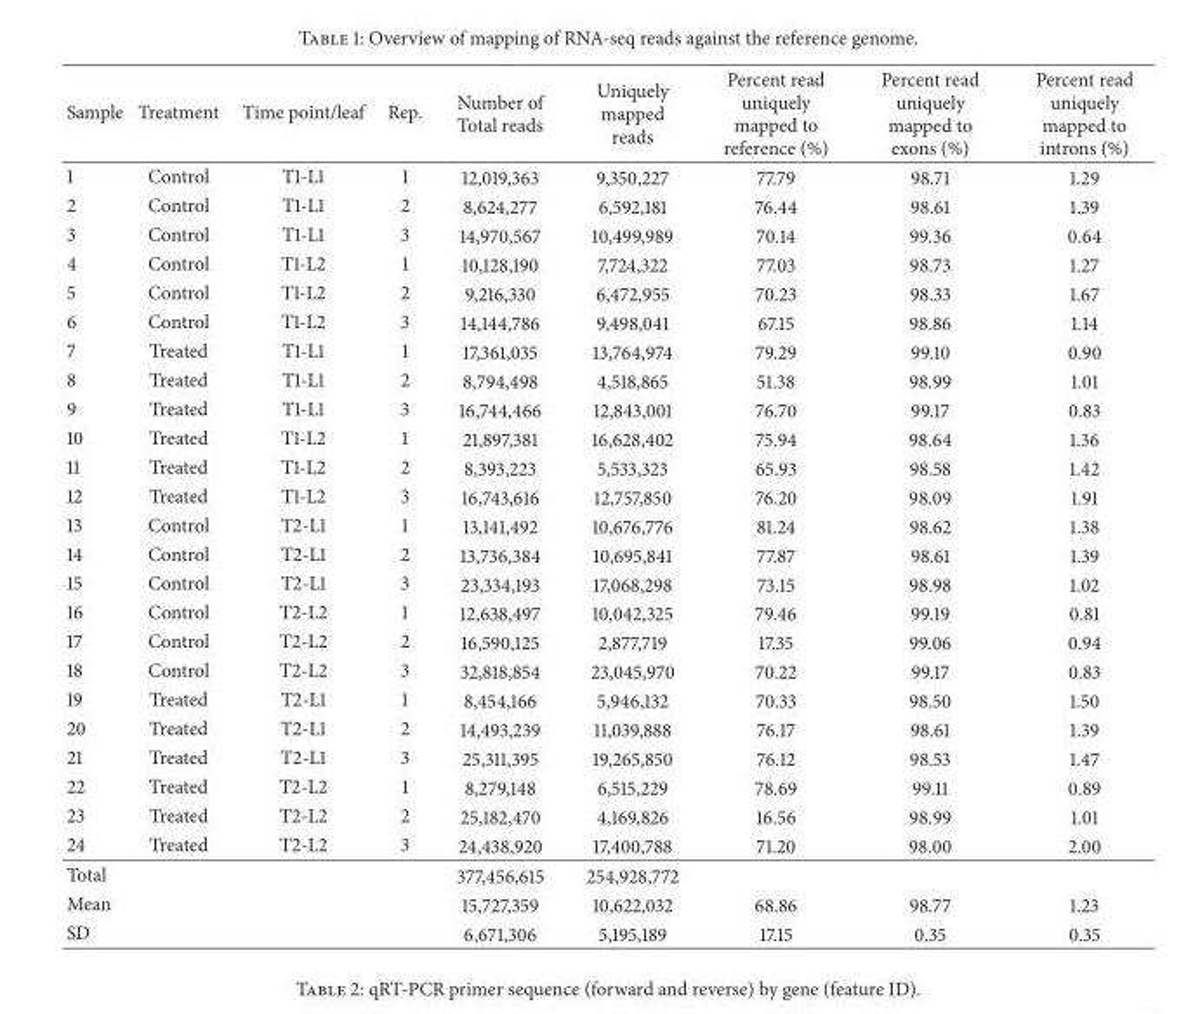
<table><thead><tr><td>Sample</td><td>Treatment</td><td>Time point/leaf</td><td>Rep.</td><td>Number of Total reads</td><td>Uniquely mapped reads</td><td>Percent read uniquely mapped to reference (%)</td><td>Percent read uniquely mapped to exons (%)</td><td>Percent read uniquely mapped to introns (%)</td></tr></thead><tbody><tr><td>1</td><td>Control</td><td>T1-L1</td><td>1</td><td>12,019,363</td><td>9,350,227</td><td>77.79</td><td>98.71</td><td>1.29</td></tr><tr><td>2</td><td>Control</td><td>T1-L1</td><td>2</td><td>8,624,277</td><td>6,592,181</td><td>76.44</td><td>98.61</td><td>1.39</td></tr><tr><td>3</td><td>Control</td><td>T1-L1</td><td>3</td><td>14,970,567</td><td>10,499,989</td><td>70.14</td><td>99.36</td><td>0.64</td></tr><tr><td>4</td><td>Control</td><td>T1-L2</td><td>1</td><td>10,128,190</td><td>7,724,322</td><td>77.03</td><td>98.73</td><td>1.27</td></tr><tr><td>5</td><td>Control</td><td>T1-L2</td><td>2</td><td>9,216,330</td><td>6,472,955</td><td>70.23</td><td>98.33</td><td>1.67</td></tr><tr><td>6</td><td>Control</td><td>T1-L2</td><td>3</td><td>14,144,786</td><td>9,498,041</td><td>67.15</td><td>98.86</td><td>1.14</td></tr><tr><td>7</td><td>Treated</td><td>T1-L1</td><td>1</td><td>17,361,035</td><td>13,764,974</td><td>79.29</td><td>99.10</td><td>0.90</td></tr><tr><td>8</td><td>Treated</td><td>T1-L1</td><td>2</td><td>8,794,498</td><td>4,518,865</td><td>51.38</td><td>98.99</td><td>1.01</td></tr><tr><td>9</td><td>Treated</td><td>T1-L1</td><td>3</td><td>16,744,466</td><td>12,843,001</td><td>76.70</td><td>99.17</td><td>0.83</td></tr><tr><td>10</td><td>Treated</td><td>T1-L2</td><td>1</td><td>21,897,381</td><td>16,628,402</td><td>75.94</td><td>98.64</td><td>1.36</td></tr><tr><td>11</td><td>Treated</td><td>T1-L2</td><td>2</td><td>8,393,223</td><td>5,533,323</td><td>65.93</td><td>98.58</td><td>1.42</td></tr><tr><td>12</td><td>Treated</td><td>T1-L2</td><td>3</td><td>16,743,616</td><td>12,757,850</td><td>76.20</td><td>98.09</td><td>1.91</td></tr><tr><td>13</td><td>Control</td><td>T2-L1</td><td>1</td><td>13,141,492</td><td>10,676,776</td><td>81.24</td><td>98.62</td><td>1.38</td></tr><tr><td>14</td><td>Control</td><td>T2-L1</td><td>2</td><td>13,736,384</td><td>10,695,841</td><td>77.87</td><td>98.61</td><td>1.39</td></tr><tr><td>15</td><td>Control</td><td>T2-L1</td><td>3</td><td>23,334,193</td><td>17,068,298</td><td>73.15</td><td>98.98</td><td>1.02</td></tr><tr><td>16</td><td>Control</td><td>T2-L2</td><td>1</td><td>12,638,497</td><td>10,042,325</td><td>79.46</td><td>99.19</td><td>0.81</td></tr><tr><td>17</td><td>Control</td><td>T2-L2</td><td>2</td><td>16,590,125</td><td>2,877,719</td><td>17.35</td><td>99.06</td><td>0.94</td></tr><tr><td>18</td><td>Control</td><td>T2-L2</td><td>3</td><td>32,818,854</td><td>23,045,970</td><td>70.22</td><td>99.17</td><td>0.83</td></tr><tr><td>19</td><td>Treated</td><td>T2-L1</td><td>1</td><td>8,454,166</td><td>5,946,132</td><td>70.33</td><td>98.50</td><td>1.50</td></tr><tr><td>20</td><td>Treated</td><td>T2-L1</td><td>2</td><td>14,493,239</td><td>11,039,888</td><td>76.17</td><td>98.61</td><td>1.39</td></tr><tr><td>21</td><td>Treated</td><td>T2-L1</td><td>3</td><td>25,311,395</td><td>19,265,850</td><td>76.12</td><td>98.53</td><td>1.47</td></tr><tr><td>22</td><td>Treated</td><td>T2-L2</td><td>1</td><td>8,279,148</td><td>6,515,229</td><td>78.69</td><td>99.11</td><td>0.89</td></tr><tr><td>23</td><td>Treated</td><td>T2-L2</td><td>2</td><td>25,182,470</td><td>4,169,826</td><td>16.56</td><td>98.99</td><td>1.01</td></tr><tr><td>24</td><td>Treated</td><td>T2-L2</td><td>3</td><td>24,438,920</td><td>17,400,788</td><td>71.20</td><td>98.00</td><td>2.00</td></tr><tr><td>Total</td><td></td><td></td><td></td><td>377,456,615</td><td>254,928,772</td><td></td><td></td><td></td></tr><tr><td>Mean</td><td></td><td></td><td></td><td>15,727,359</td><td>10,622,032</td><td>68.86</td><td>98.77</td><td>1.23</td></tr><tr><td>SD</td><td></td><td></td><td></td><td>6,671,306</td><td>5,195,189</td><td>17.15</td><td>0.35</td><td>0.35</td></tr></tbody></table>